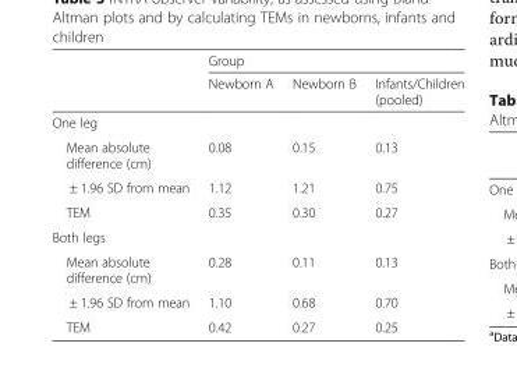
<table><thead><tr><td rowspan="2"></td><td colspan="3">Group</td></tr><tr><td>Newborn A</td><td>Newborn B</td><td>Infants/Children (pooled)</td></tr></thead><tbody><tr><td colspan="4">One leg</td></tr><tr><td>Mean absolute difference (cm)</td><td>0.08</td><td>0.15</td><td>0.13</td></tr><tr><td>± 1.96 SD from mean</td><td>1.12</td><td>1.21</td><td>0.75</td></tr><tr><td>TEM</td><td>0.35</td><td>0.30</td><td>0.27</td></tr><tr><td colspan="4">Both legs</td></tr><tr><td>Mean absolute difference (cm)</td><td>0.28</td><td>0.11</td><td>0.13</td></tr><tr><td>± 1.96 SD from mean</td><td>1.10</td><td>0.68</td><td>0.70</td></tr><tr><td>TEM</td><td>0.42</td><td>0.27</td><td>0.25</td></tr></tbody></table>